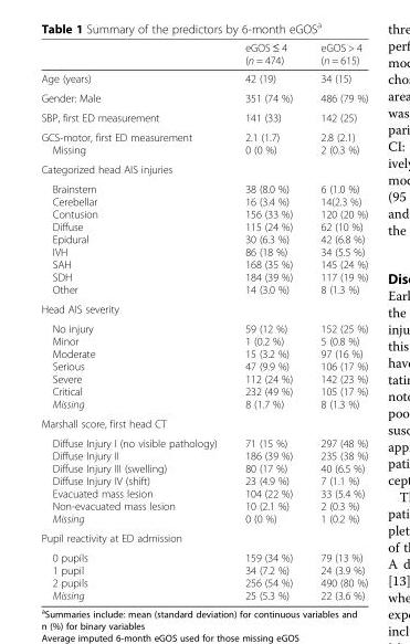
<table><thead><tr><td></td><td>eGOS ≤ 4 (n = 474)</td><td>eGOS &gt; 4 (n = 615)</td></tr></thead><tbody><tr><td>Age (years)</td><td>42 (19)</td><td>34 (15)</td></tr><tr><td>Gender: Male</td><td>351 (74 %)</td><td>486 (79 %)</td></tr><tr><td>SBP, first ED measurement</td><td>141 (33)</td><td>142 (25)</td></tr><tr><td>GCS-motor, first ED measurement Missing</td><td>2.1 (1.7) 0 (0 %)</td><td>2.8 (2.1) 2 (0.3 %)</td></tr><tr><td colspan="3">Categorized head AIS injuries</td></tr><tr><td>Brainstem Cerebellar Contusion Diffuse Epidural IVH SAH SDH Other</td><td>38 (8.0 %) 16 (3.4 %) 156 (33 %) 115 (24 %) 30 (6.3 %) 86 (18 %) 168 (35 %) 184 (39 %) 14 (3.0 %)</td><td>6 (1.0 %) 14(2.3 %) 120 (20 %) 62 (10 %) 42 (6.8 %) 34 (5.5 %) 145 (24 %) 117 (19 %) 8 (1.3 %)</td></tr><tr><td colspan="3">Head AIS severity</td></tr><tr><td>No injury Minor Moderate Serious Severe Critical Missing</td><td>59 (12 %) 1 (0.2 %) 15 (3.2 %) 47 (9.9 %) 112 (24 %) 232 (49 %) 8 (1.7 %)</td><td>152 (25 %) 5 (0.8 %) 97 (16 %) 106 (17 %) 142 (23 %) 105 (17 %) 8 (1.3 %)</td></tr><tr><td colspan="3">Marshall score, first head CT</td></tr><tr><td>Diffuse Injury I (no visible pathology) Diffuse Injury II Diffuse Injury III (swelling) Diffuse Injury IV (shift) Evacuated mass lesion Non-evacuated mass lesion Missing</td><td>71 (15 %) 186 (39 %) 80 (17 %) 23 (4.9 %) 104 (22 %) 10 (2.1 %) 0 (0 %)</td><td>297 (48 %) 235 (38 %) 40 (6.5 %) 7 (1.1 %) 33 (5.4 %) 2 (0.3 %) 1 (0.2 %)</td></tr><tr><td colspan="3">Pupil reactivity at ED admission</td></tr><tr><td>0 pupils 1 pupil 2 pupils Missing</td><td>159 (34 %) 34 (7.2 %) 256 (54 %) 25 (5.3 %)</td><td>79 (13 %) 24 (3.9 %) 490 (80 %) 22 (3.6 %)</td></tr></tbody></table>